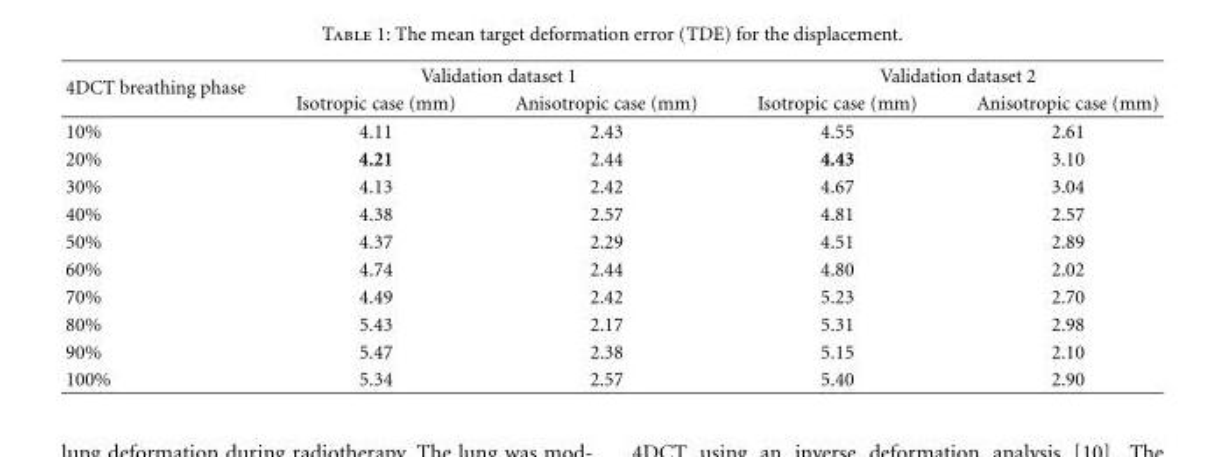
<table><thead><tr><td rowspan="2">4DCT breathing phase</td><td colspan="2">Validation dataset 1</td><td colspan="2">Validation dataset 2</td></tr><tr><td>Isotropic case (mm)</td><td>Anisotropic case (mm)</td><td>Isotropic case (mm)</td><td>Anisotropic case (mm)</td></tr></thead><tbody><tr><td>10%</td><td>4.11</td><td>2.43</td><td>4.55</td><td>2.61</td></tr><tr><td>20%</td><td>4.21</td><td>2.44</td><td>4.43</td><td>3.10</td></tr><tr><td>30%</td><td>4.13</td><td>2.42</td><td>4.67</td><td>3.04</td></tr><tr><td>40%</td><td>4.38</td><td>2.57</td><td>4.81</td><td>2.57</td></tr><tr><td>50%</td><td>4.37</td><td>2.29</td><td>4.51</td><td>2.89</td></tr><tr><td>60%</td><td>4.74</td><td>2.44</td><td>4.80</td><td>2.02</td></tr><tr><td>70%</td><td>4.49</td><td>2.42</td><td>5.23</td><td>2.70</td></tr><tr><td>80%</td><td>5.43</td><td>2.17</td><td>5.31</td><td>2.98</td></tr><tr><td>90%</td><td>5.47</td><td>2.38</td><td>5.15</td><td>2.10</td></tr><tr><td>100%</td><td>5.34</td><td>2.57</td><td>5.40</td><td>2.90</td></tr></tbody></table>